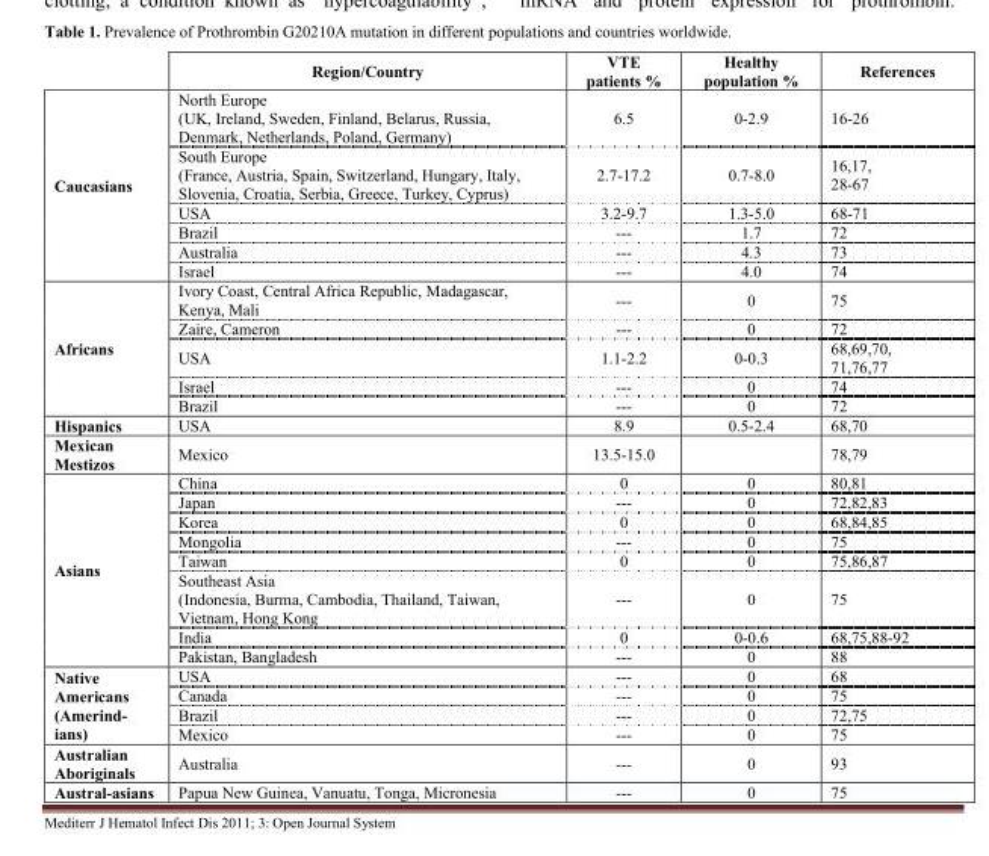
<table><thead><tr><td></td><td>Region/Country</td><td>VTE patients %</td><td>Healthy population %</td><td>References</td></tr></thead><tbody><tr><td rowspan="6">Caucasians</td><td>North Europe (UK, Ireland, Sweden, Finland, Belarus, Russia, Denmark, Netherlands, Poland, Germany)</td><td>6.5</td><td>0-2.9</td><td>16-26</td></tr><tr><td>South Europe (France, Austria, Spain, Switzerland, Hungary, Italy, Slovenia, Croatia, Serbia, Greece, Turkey, Cyprus)</td><td>2.7-17.2</td><td>0.7-8.0</td><td>16,17, 28-67</td></tr><tr><td>USA</td><td>3.2-9.7</td><td>1.3-5.0</td><td>68-71</td></tr><tr><td>Brazil</td><td>---</td><td>1.7</td><td>72</td></tr><tr><td>Australia</td><td>---</td><td>4.3</td><td>73</td></tr><tr><td>Israel</td><td>---</td><td>4.0</td><td>74</td></tr><tr><td rowspan="5">Africans</td><td>Ivory Coast, Central Africa Republic, Madagascar, Kenya, Mali</td><td>---</td><td>0</td><td>75</td></tr><tr><td>Zaire, Cameron</td><td>---</td><td>0</td><td>72</td></tr><tr><td>USA</td><td>1.1-2.2</td><td>0-0.3</td><td>68,69,70, 71,76,77</td></tr><tr><td>Israel</td><td>---</td><td>0</td><td>74</td></tr><tr><td>Brazil</td><td>---</td><td>0</td><td>72</td></tr><tr><td>Hispanics</td><td>USA</td><td>8.9</td><td>0.5-2.4</td><td>68,70</td></tr><tr><td>Mexican Mestizos</td><td>Mexico</td><td>13.5-15.0</td><td></td><td>78,79</td></tr><tr><td rowspan="8">Asians</td><td>China</td><td>0</td><td>0</td><td>80,81</td></tr><tr><td>Japan</td><td>---</td><td>0</td><td>72,82,83</td></tr><tr><td>Korea</td><td>0</td><td>0</td><td>68,84,85</td></tr><tr><td>Mongolia</td><td>---</td><td>0</td><td>75</td></tr><tr><td>Taiwan</td><td>0</td><td>0</td><td>75,86,87</td></tr><tr><td>Southeast Asia (Indonesia, Burma, Cambodia, Thailand, Taiwan, Vietnam, Hong Kong</td><td>---</td><td>0</td><td>75</td></tr><tr><td>India</td><td>0</td><td>0-0.6</td><td>68,75,88-92</td></tr><tr><td>Pakistan, Bangladesh</td><td>---</td><td>0</td><td>88</td></tr><tr><td rowspan="4">Native Americans (Amerind- ians)</td><td>USA</td><td>---</td><td>0</td><td>68</td></tr><tr><td>Canada</td><td>---</td><td>0</td><td>75</td></tr><tr><td>Brazil</td><td>---</td><td>0</td><td>72,75</td></tr><tr><td>Mexico</td><td>---</td><td>0</td><td>75</td></tr><tr><td>Australian Aboriginals</td><td>Australia</td><td>---</td><td>0</td><td>93</td></tr><tr><td>Austral-asians</td><td>Papua New Guinea, Vanuatu, Tonga, Micronesia</td><td>---</td><td>0</td><td>75</td></tr></tbody></table>